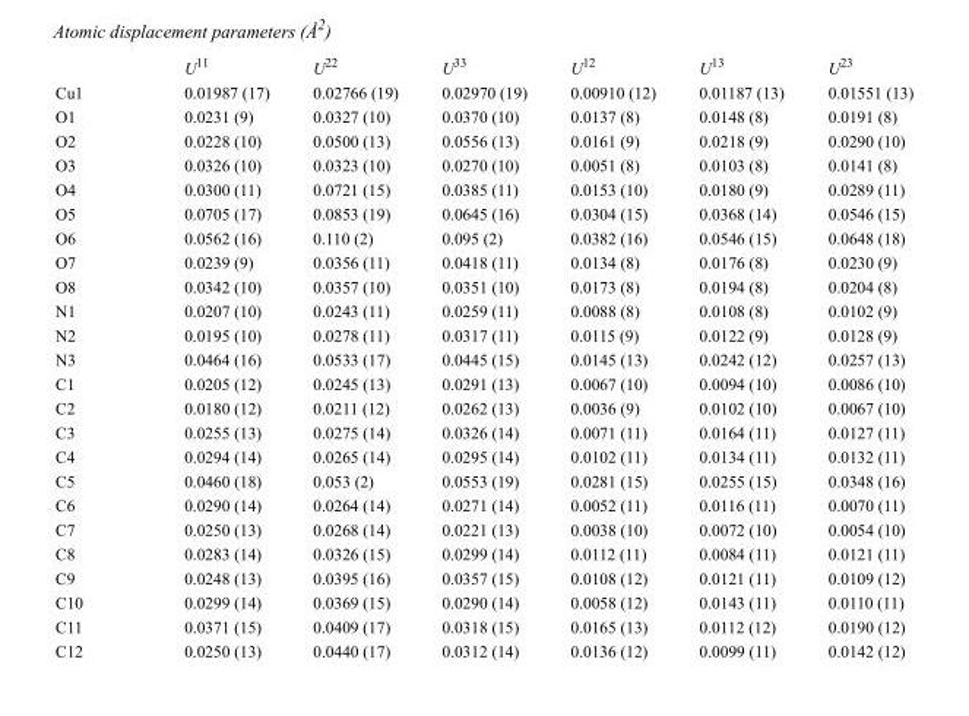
<table><thead><tr><td></td><td>U<sup>11</sup></td><td>U<sup>22</sup></td><td>U<sup>33</sup></td><td>U<sup>12</sup></td><td>U<sup>13</sup></td><td>U<sup>23</sup></td></tr></thead><tbody><tr><td>Cu1</td><td>0.01987 (17)</td><td>0.02766 (19)</td><td>0.02970 (19)</td><td>0.00910 (12)</td><td>0.01187 (13)</td><td>0.01551 (13)</td></tr><tr><td>O1</td><td>0.0231 (9)</td><td>0.0327 (10)</td><td>0.0370 (10)</td><td>0.0137 (8)</td><td>0.0148 (8)</td><td>0.0191 (8)</td></tr><tr><td>O2</td><td>0.0228 (10)</td><td>0.0500 (13)</td><td>0.0556 (13)</td><td>0.0161 (9)</td><td>0.0218 (9)</td><td>0.0290 (10)</td></tr><tr><td>O3</td><td>0.0326 (10)</td><td>0.0323 (10)</td><td>0.0270 (10)</td><td>0.0051 (8)</td><td>0.0103 (8)</td><td>0.0141 (8)</td></tr><tr><td>O4</td><td>0.0300 (11)</td><td>0.0721 (15)</td><td>0.0385 (11)</td><td>0.0153 (10)</td><td>0.0180 (9)</td><td>0.0289 (11)</td></tr><tr><td>O5</td><td>0.0705 (17)</td><td>0.0853 (19)</td><td>0.0645 (16)</td><td>0.0304 (15)</td><td>0.0368 (14)</td><td>0.0546 (15)</td></tr><tr><td>O6</td><td>0.0562 (16)</td><td>0.110 (2)</td><td>0.095 (2)</td><td>0.0382 (16)</td><td>0.0546 (15)</td><td>0.0648 (18)</td></tr><tr><td>O7</td><td>0.0239 (9)</td><td>0.0356 (11)</td><td>0.0418 (11)</td><td>0.0134 (8)</td><td>0.0176 (8)</td><td>0.0230 (9)</td></tr><tr><td>O8</td><td>0.0342 (10)</td><td>0.0357 (10)</td><td>0.0351 (10)</td><td>0.0173 (8)</td><td>0.0194 (8)</td><td>0.0204 (8)</td></tr><tr><td>N1</td><td>0.0207 (10)</td><td>0.0243 (11)</td><td>0.0259 (11)</td><td>0.0088 (8)</td><td>0.0108 (8)</td><td>0.0102 (9)</td></tr><tr><td>N2</td><td>0.0195 (10)</td><td>0.0278 (11)</td><td>0.0317 (11)</td><td>0.0115 (9)</td><td>0.0122 (9)</td><td>0.0128 (9)</td></tr><tr><td>N3</td><td>0.0464 (16)</td><td>0.0533 (17)</td><td>0.0445 (15)</td><td>0.0145 (13)</td><td>0.0242 (12)</td><td>0.0257 (13)</td></tr><tr><td>C1</td><td>0.0205 (12)</td><td>0.0245 (13)</td><td>0.0291 (13)</td><td>0.0067 (10)</td><td>0.0094 (10)</td><td>0.0086 (10)</td></tr><tr><td>C2</td><td>0.0180 (12)</td><td>0.0211 (12)</td><td>0.0262 (13)</td><td>0.0036 (9)</td><td>0.0102 (10)</td><td>0.0067 (10)</td></tr><tr><td>C3</td><td>0.0255 (13)</td><td>0.0275 (14)</td><td>0.0326 (14)</td><td>0.0071 (11)</td><td>0.0164 (11)</td><td>0.0127 (11)</td></tr><tr><td>C4</td><td>0.0294 (14)</td><td>0.0265 (14)</td><td>0.0295 (14)</td><td>0.0102 (11)</td><td>0.0134 (11)</td><td>0.0132 (11)</td></tr><tr><td>C5</td><td>0.0460 (18)</td><td>0.053 (2)</td><td>0.0553 (19)</td><td>0.0281 (15)</td><td>0.0255 (15)</td><td>0.0348 (16)</td></tr><tr><td>C6</td><td>0.0290 (14)</td><td>0.0264 (14)</td><td>0.0271 (14)</td><td>0.0052 (11)</td><td>0.0116 (11)</td><td>0.0070 (11)</td></tr><tr><td>C7</td><td>0.0250 (13)</td><td>0.0268 (14)</td><td>0.0221 (13)</td><td>0.0038 (10)</td><td>0.0072 (10)</td><td>0.0054 (10)</td></tr><tr><td>C8</td><td>0.0283 (14)</td><td>0.0326 (15)</td><td>0.0299 (14)</td><td>0.0112 (11)</td><td>0.0084 (11)</td><td>0.0121 (11)</td></tr><tr><td>C9</td><td>0.0248 (13)</td><td>0.0395 (16)</td><td>0.0357 (15)</td><td>0.0108 (12)</td><td>0.0121 (11)</td><td>0.0109 (12)</td></tr><tr><td>C10</td><td>0.0299 (14)</td><td>0.0369 (15)</td><td>0.0290 (14)</td><td>0.0058 (12)</td><td>0.0143 (11)</td><td>0.0110 (11)</td></tr><tr><td>C11</td><td>0.0371 (15)</td><td>0.0409 (17)</td><td>0.0318 (15)</td><td>0.0165 (13)</td><td>0.0112 (12)</td><td>0.0190 (12)</td></tr><tr><td>C12</td><td>0.0250 (13)</td><td>0.0440 (17)</td><td>0.0312 (14)</td><td>0.0136 (12)</td><td>0.0099 (11)</td><td>0.0142 (12)</td></tr></tbody></table>